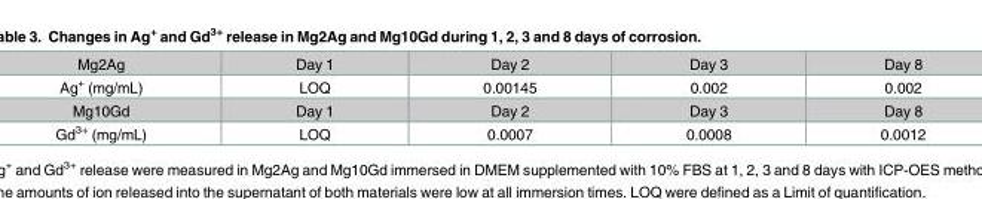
<table><tbody><tr><td>Mg2Ag</td><td>Day 1</td><td>Day 2</td><td>Day 3</td><td>Day 8</td></tr><tr><td>Ag<sup>+</sup> (mg/mL)</td><td>LOQ</td><td>0.00145</td><td>0.002</td><td>0.002</td></tr><tr><td>Mg10Gd</td><td>Day 1</td><td>Day 2</td><td>Day 3</td><td>Day 8</td></tr><tr><td>Gd<sup>3+</sup> (mg/mL)</td><td>LOQ</td><td>0.0007</td><td>0.0008</td><td>0.0012</td></tr></tbody></table>